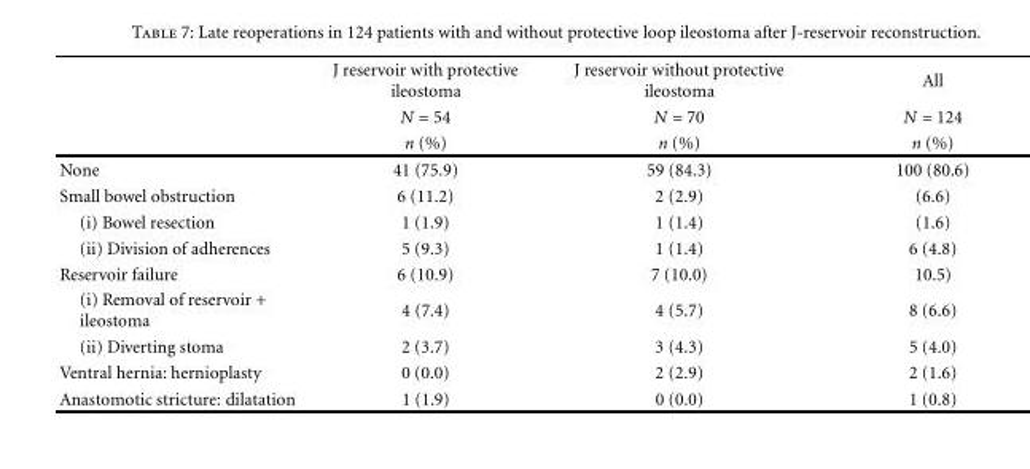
<table><thead><tr><td rowspan="3"></td><td rowspan="3">J reservoir with protective ileostoma N = 54 n (%)</td><td rowspan="3">J reservoir without protective ileostoma N = 70 n (%)</td><td rowspan="3">All N = 124 n (%)</td></tr><tr></tr><tr></tr></thead><tbody><tr><td>None</td><td>41 (75.9)</td><td>59 (84.3)</td><td>100 (80.6)</td></tr><tr><td>Small bowel obstruction</td><td>6 (11.2)</td><td>2 (2.9)</td><td>(6.6)</td></tr><tr><td>(i) Bowel resection</td><td>1 (1.9)</td><td>1 (1.4)</td><td>(1.6)</td></tr><tr><td>(ii) Division of adherences</td><td>5 (9.3)</td><td>1 (1.4)</td><td>6 (4.8)</td></tr><tr><td>Reservoir failure</td><td>6 (10.9)</td><td>7 (10.0)</td><td>10.5)</td></tr><tr><td>(i) Removal of reservoir + ileostoma</td><td>4 (7.4)</td><td>4 (5.7)</td><td>8 (6.6)</td></tr><tr><td>(ii) Diverting stoma</td><td>2 (3.7)</td><td>3 (4.3)</td><td>5 (4.0)</td></tr><tr><td>Ventral hernia: hernioplasty</td><td>0 (0.0)</td><td>2 (2.9)</td><td>2 (1.6)</td></tr><tr><td>Anastomotic stricture: dilatation</td><td>1 (1.9)</td><td>0 (0.0)</td><td>1 (0.8)</td></tr></tbody></table>